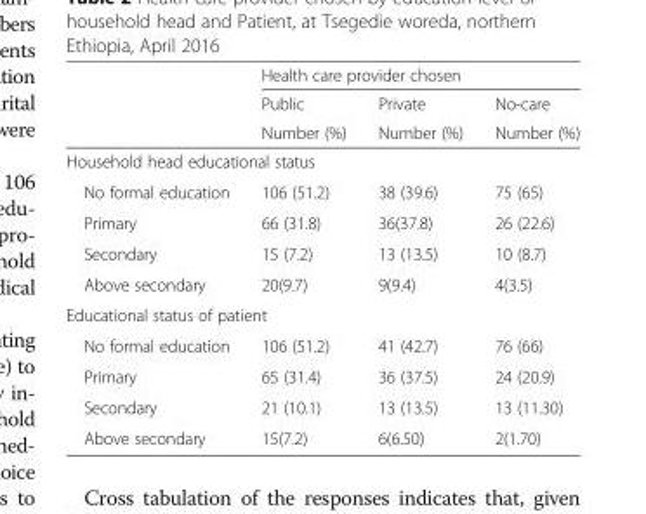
<table><thead><tr><td rowspan="3"></td><td colspan="3">Health care provider chosen</td></tr><tr><td rowspan="2">Public Number (%)</td><td rowspan="2">Private Number (%)</td><td rowspan="2">No-care Number (%)</td></tr><tr></tr></thead><tbody><tr><td colspan="4">Household head educational status</td></tr><tr><td>No formal education</td><td>106 (51.2)</td><td>38 (39.6)</td><td>75 (65)</td></tr><tr><td>Primary</td><td>66 (31.8)</td><td>36(37.8)</td><td>26 (22.6)</td></tr><tr><td>Secondary</td><td>15 (7.2)</td><td>13 (13.5)</td><td>10 (8.7)</td></tr><tr><td>Above secondary</td><td>20(9.7)</td><td>9(9.4)</td><td>4(3.5)</td></tr><tr><td colspan="4">Educational status of patient</td></tr><tr><td>No formal education</td><td>106 (51.2)</td><td>41 (42.7)</td><td>76 (66)</td></tr><tr><td>Primary</td><td>65 (31.4)</td><td>36 (37.5)</td><td>24 (20.9)</td></tr><tr><td>Secondary</td><td>21 (10.1)</td><td>13 (13.5)</td><td>13 (11.30)</td></tr><tr><td>Above secondary</td><td>15(7.2)</td><td>6(6.50)</td><td>2(1.70)</td></tr></tbody></table>